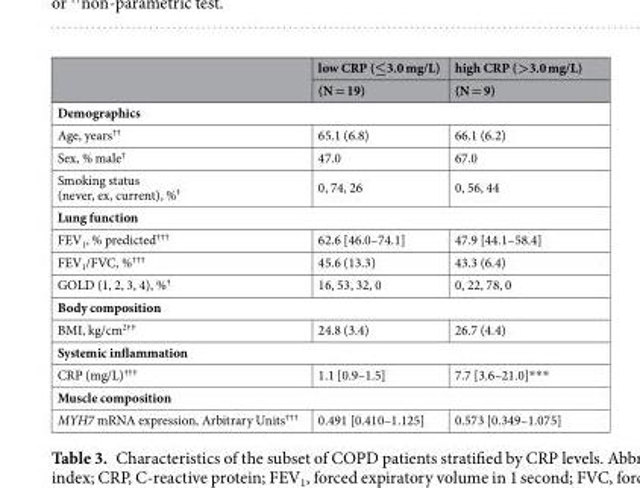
<table><thead><tr><td rowspan="2"></td><td rowspan="2">low CRP (≤3.0 mg/L) (N = 19)</td><td rowspan="2">high CRP (&gt;3.0 mg/L) (N = 9)</td></tr><tr></tr></thead><tbody><tr><td colspan="3">Demographics</td></tr><tr><td>Age, years<sup>††</sup></td><td>65.1 (6.8)</td><td>66.1 (6.2)</td></tr><tr><td>Sex, % male<sup>†</sup></td><td>47.0</td><td>67.0</td></tr><tr><td>Smoking status (never, ex, current), %<sup>†</sup></td><td>0, 74, 26</td><td>0, 56, 44</td></tr><tr><td colspan="3">Lung function</td></tr><tr><td>FEV<sub>1</sub>, % predicted<sup>†††</sup></td><td>62.6 [46.0–74.1]</td><td>47.9 [44.1–58.4]</td></tr><tr><td>FEV<sub>1</sub>/FVC, %<sup>†††</sup></td><td>45.6 (13.3)</td><td>43.3 (6.4)</td></tr><tr><td>GOLD (1, 2, 3, 4), %<sup>†</sup></td><td>16, 53, 32, 0</td><td>0, 22, 78, 0</td></tr><tr><td colspan="3">Body composition</td></tr><tr><td>BMI, kg/cm<sup>2††</sup></td><td>24.8 (3.4)</td><td>26.7 (4.4)</td></tr><tr><td colspan="3">Systemic inflammation</td></tr><tr><td>CRP (mg/L)<sup>†††</sup></td><td>1.1 [0.9–1.5]</td><td>7.7 [3.6–21.0]***</td></tr><tr><td colspan="3">Muscle composition</td></tr><tr><td>MYH7 mRNA expression, Arbitrary Units<sup>†††</sup></td><td>0.491 [0.410–1.125]</td><td>0.573 [0.349–1.075]</td></tr></tbody></table>